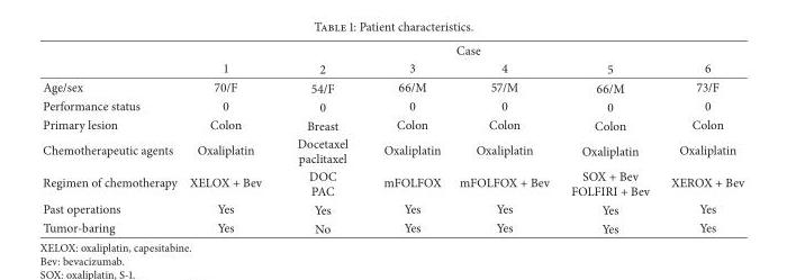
<table><thead><tr><td rowspan="2"></td><td colspan="6">Case</td></tr><tr><td>1</td><td>2</td><td>3</td><td>4</td><td>5</td><td>6</td></tr></thead><tbody><tr><td>Age/sex</td><td>70/F</td><td>54/F</td><td>66/M</td><td>57/M</td><td>66/M</td><td>73/F</td></tr><tr><td>Performance status</td><td>0</td><td>0</td><td>0</td><td>0</td><td>0</td><td>0</td></tr><tr><td>Primary lesion</td><td>Colon</td><td>Breast</td><td>Colon</td><td>Colon</td><td>Colon</td><td>Colon</td></tr><tr><td>Chemotherapeutic agents</td><td>Oxaliplatin</td><td>Docetaxel paclitaxel</td><td>Oxaliplatin</td><td>Oxaliplatin</td><td>Oxaliplatin</td><td>Oxaliplatin</td></tr><tr><td>Regimen of chemotherapy</td><td>XELOX + Bev</td><td>DOC PAC</td><td>mFOLFOX</td><td>mFOLFOX + Bev</td><td>SOX + Bev FOLFIRI + Bev</td><td>XEROX + Bev</td></tr><tr><td>Past operations</td><td>Yes</td><td>Yes</td><td>Yes</td><td>Yes</td><td>Yes</td><td>Yes</td></tr><tr><td>Tumor-baring</td><td>Yes</td><td>No</td><td>Yes</td><td>Yes</td><td>Yes</td><td>Yes</td></tr></tbody></table>